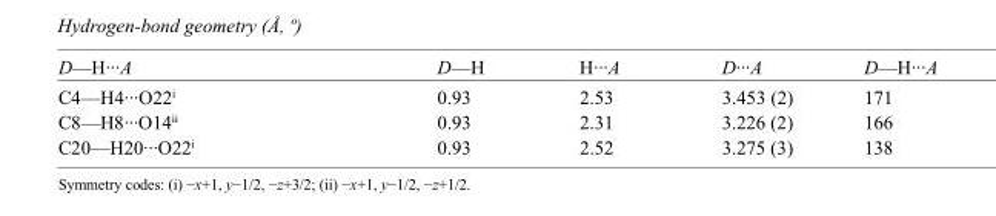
<table><tbody><tr><td>D—H···A</td><td>D—H</td><td>H···A</td><td>D···A</td><td>D—H···A</td></tr><tr><td>C4—H4···O22<sup>i</sup></td><td>0.93</td><td>2.53</td><td>3.453 (2)</td><td>171</td></tr><tr><td>C8—H8···O14<sup>ii</sup></td><td>0.93</td><td>2.31</td><td>3.226 (2)</td><td>166</td></tr><tr><td>C20—H20···O22<sup>i</sup></td><td>0.93</td><td>2.52</td><td>3.275 (3)</td><td>138</td></tr></tbody></table>